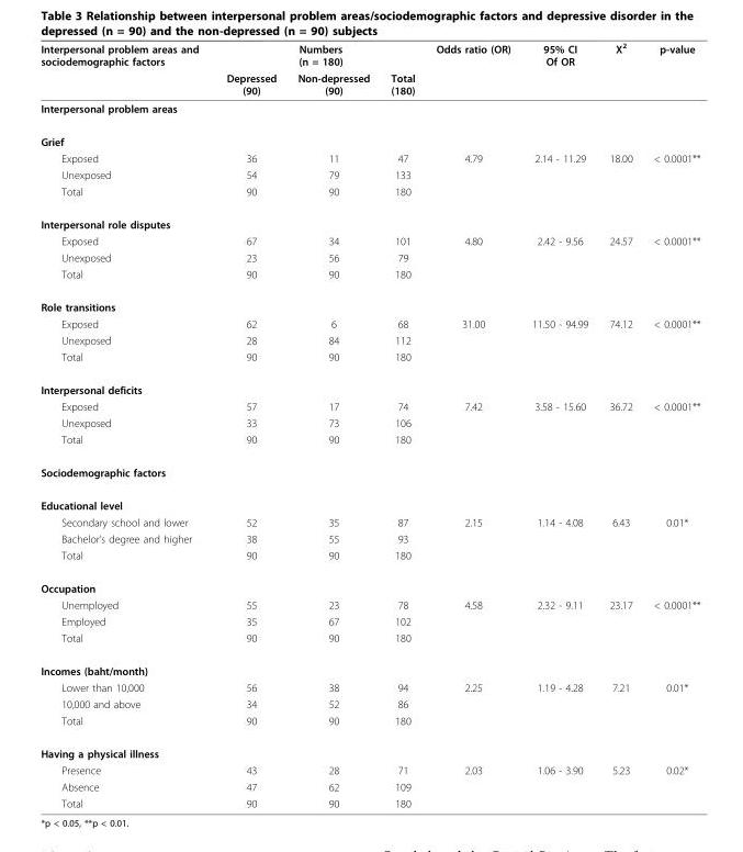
<table><thead><tr><td rowspan="2">Interpersonal problem areas and sociodemographic factors</td><td colspan="3">Numbers (n = 180)</td><td rowspan="2">Odds ratio (OR)</td><td rowspan="2">95% CI Of OR</td><td rowspan="2">X<sup>2</sup></td><td rowspan="2">p-value</td></tr><tr><td>Depressed (90)</td><td>Non-depressed (90)</td><td>Total (180)</td></tr></thead><tbody><tr><td colspan="8">Interpersonal problem areas</td></tr><tr><td colspan="8">Grief</td></tr><tr><td>Exposed</td><td>36</td><td>11</td><td>47</td><td>4.79</td><td>2.14 - 11.29</td><td>18.00</td><td>&lt; 0.0001**</td></tr><tr><td>Unexposed</td><td>54</td><td>79</td><td>133</td><td></td><td></td><td></td><td></td></tr><tr><td>Total</td><td>90</td><td>90</td><td>180</td><td></td><td></td><td></td><td></td></tr><tr><td colspan="8">Interpersonal role disputes</td></tr><tr><td>Exposed</td><td>67</td><td>34</td><td>101</td><td>4.80</td><td>2.42 - 9.56</td><td>24.57</td><td>&lt; 0.0001**</td></tr><tr><td>Unexposed</td><td>23</td><td>56</td><td>79</td><td></td><td></td><td></td><td></td></tr><tr><td>Total</td><td>90</td><td>90</td><td>180</td><td></td><td></td><td></td><td></td></tr><tr><td colspan="8">Role transitions</td></tr><tr><td>Exposed</td><td>62</td><td>6</td><td>68</td><td>31.00</td><td>11.50 - 94.99</td><td>74.12</td><td>&lt; 0.0001**</td></tr><tr><td>Unexposed</td><td>28</td><td>84</td><td>112</td><td></td><td></td><td></td><td></td></tr><tr><td>Total</td><td>90</td><td>90</td><td>180</td><td></td><td></td><td></td><td></td></tr><tr><td colspan="8">Interpersonal deficits</td></tr><tr><td>Exposed</td><td>57</td><td>17</td><td>74</td><td>7.42</td><td>3.58 - 15.60</td><td>36.72</td><td>&lt; 0.0001**</td></tr><tr><td>Unexposed</td><td>33</td><td>73</td><td>106</td><td></td><td></td><td></td><td></td></tr><tr><td>Total</td><td>90</td><td>90</td><td>180</td><td></td><td></td><td></td><td></td></tr><tr><td colspan="8">Sociodemographic factors</td></tr><tr><td colspan="8">Educational level</td></tr><tr><td>Secondary school and lower</td><td>52</td><td>35</td><td>87</td><td>2.15</td><td>1.14 - 4.08</td><td>6.43</td><td>0.01*</td></tr><tr><td>Bachelor’s degree and higher</td><td>38</td><td>55</td><td>93</td><td></td><td></td><td></td><td></td></tr><tr><td>Total</td><td>90</td><td>90</td><td>180</td><td></td><td></td><td></td><td></td></tr><tr><td colspan="8">Occupation</td></tr><tr><td>Unemployed</td><td>55</td><td>23</td><td>78</td><td>4.58</td><td>2.32 - 9.11</td><td>23.17</td><td>&lt; 0.0001**</td></tr><tr><td>Employed</td><td>35</td><td>67</td><td>102</td><td></td><td></td><td></td><td></td></tr><tr><td>Total</td><td>90</td><td>90</td><td>180</td><td></td><td></td><td></td><td></td></tr><tr><td colspan="8">Incomes (baht/month)</td></tr><tr><td>Lower than 10,000</td><td>56</td><td>38</td><td>94</td><td>2.25</td><td>1.19 - 4.28</td><td>7.21</td><td>0.01*</td></tr><tr><td>10,000 and above</td><td>34</td><td>52</td><td>86</td><td></td><td></td><td></td><td></td></tr><tr><td>Total</td><td>90</td><td>90</td><td>180</td><td></td><td></td><td></td><td></td></tr><tr><td colspan="8">Having a physical illness</td></tr><tr><td>Presence</td><td>43</td><td>28</td><td>71</td><td>2.03</td><td>1.06 - 3.90</td><td>5.23</td><td>0.02*</td></tr><tr><td>Absence</td><td>47</td><td>62</td><td>109</td><td></td><td></td><td></td><td></td></tr><tr><td>Total</td><td>90</td><td>90</td><td>180</td><td></td><td></td><td></td><td></td></tr></tbody></table>